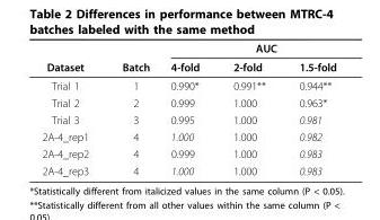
<table><thead><tr><td rowspan="2">Dataset</td><td rowspan="2">Batch</td><td colspan="3">AUC</td></tr><tr><td>4-fold</td><td>2-fold</td><td>1.5-fold</td></tr></thead><tbody><tr><td>Trial 1</td><td>1</td><td>0.990*</td><td>0.991**</td><td>0.944**</td></tr><tr><td>Trial 2</td><td>2</td><td>0.999</td><td>1.000</td><td>0.963*</td></tr><tr><td>Trial 3</td><td>3</td><td>0.995</td><td>1.000</td><td>0.981</td></tr><tr><td>2A-4_rep1</td><td>4</td><td>1.000</td><td>1.000</td><td>0.982</td></tr><tr><td>2A-4_rep2</td><td>4</td><td>0.999</td><td>1.000</td><td>0.983</td></tr><tr><td>2A-4_rep3</td><td>4</td><td>1.000</td><td>1.000</td><td>0.983</td></tr></tbody></table>